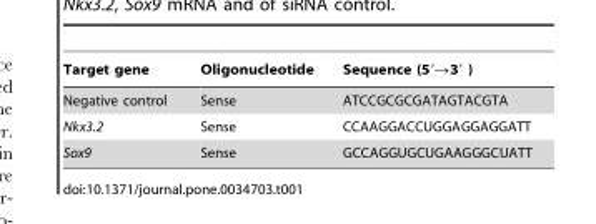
<table><thead><tr><td>Target gene</td><td>Oligonucleotide</td><td>Sequence (5′→3′ )</td></tr></thead><tbody><tr><td>Negative control</td><td>Sense</td><td>ATCCGCGCGATAGTACGTA</td></tr><tr><td>Nkx3.2</td><td>Sense</td><td>CCAAGGACCUGGAGGAGGATT</td></tr><tr><td>Sox9</td><td>Sense</td><td>GCCAGGUGCUGAAGGGCUATT</td></tr></tbody></table>